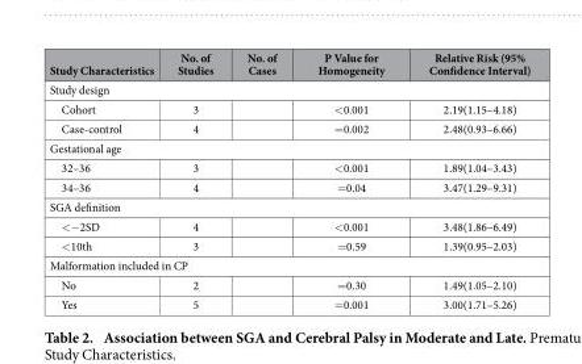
<table><thead><tr><td>Study Characteristics</td><td>No. of Studies</td><td>No. of Cases</td><td>P Value for Homogeneity</td><td>Relative Risk (95% Confidence Interval)</td></tr></thead><tbody><tr><td colspan="5">Study design</td></tr><tr><td>Cohort</td><td>3</td><td></td><td>&lt; 0.001</td><td>2.19(1.15–4.18)</td></tr><tr><td>Case-control</td><td>4</td><td></td><td>= 0.002</td><td>2.48(0.93–6.66)</td></tr><tr><td colspan="5">Gestational age</td></tr><tr><td>32–36</td><td>3</td><td></td><td>&lt; 0.001</td><td>1.89(1.04–3.43)</td></tr><tr><td>34–36</td><td>4</td><td></td><td>= 0.04</td><td>3.47(1.29–9.31)</td></tr><tr><td colspan="5">SGA definition</td></tr><tr><td>&lt; − 2SD</td><td>4</td><td></td><td>&lt; 0.001</td><td>3.48(1.86–6.49)</td></tr><tr><td>&lt; 10th</td><td>3</td><td></td><td>= 0.59</td><td>1.39(0.95–2.03)</td></tr><tr><td colspan="5">Malformation included in CP</td></tr><tr><td>No</td><td>2</td><td></td><td>= 0.30</td><td>1.49(1.05–2.10)</td></tr><tr><td>Yes</td><td>5</td><td></td><td>= 0.001</td><td>3.00(1.71–5.26)</td></tr></tbody></table>